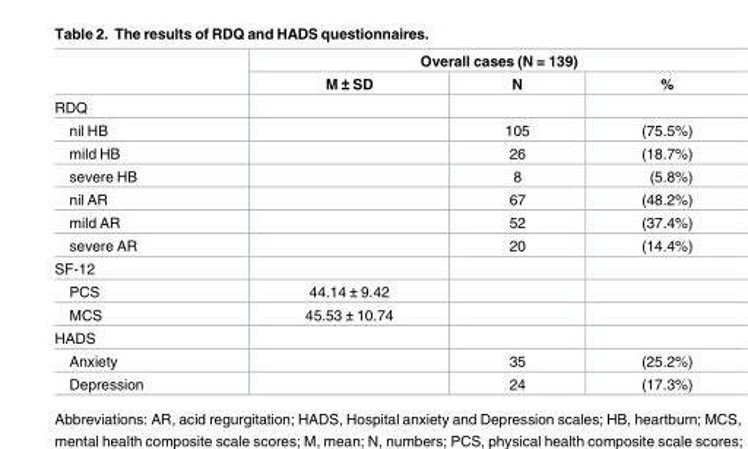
<table><thead><tr><td rowspan="2"></td><td colspan="3">Overall cases (N = 139)</td></tr><tr><td>M ± SD</td><td>N</td><td>%</td></tr></thead><tbody><tr><td colspan="4">RDQ</td></tr><tr><td>nil HB</td><td></td><td>105</td><td>(75.5%)</td></tr><tr><td>mild HB</td><td></td><td>26</td><td>(18.7%)</td></tr><tr><td>severe HB</td><td></td><td>8</td><td>(5.8%)</td></tr><tr><td>nil AR</td><td></td><td>67</td><td>(48.2%)</td></tr><tr><td>mild AR</td><td></td><td>52</td><td>(37.4%)</td></tr><tr><td>severe AR</td><td></td><td>20</td><td>(14.4%)</td></tr><tr><td colspan="4">SF-12</td></tr><tr><td>PCS</td><td>44.14 ± 9.42</td><td></td><td></td></tr><tr><td>MCS</td><td>45.53 ± 10.74</td><td></td><td></td></tr><tr><td colspan="4">HADS</td></tr><tr><td>Anxiety</td><td></td><td>35</td><td>(25.2%)</td></tr><tr><td>Depression</td><td></td><td>24</td><td>(17.3%)</td></tr></tbody></table>